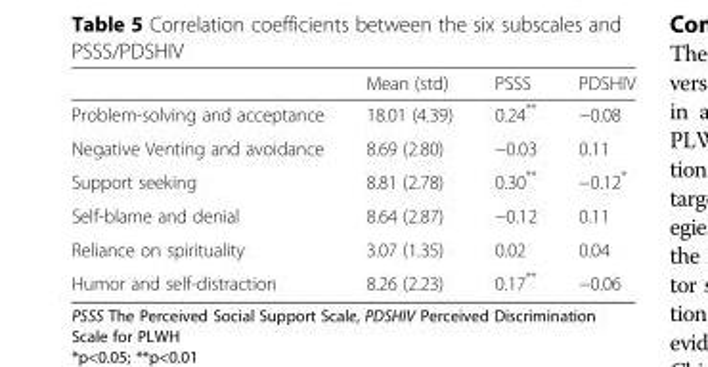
<table><thead><tr><td></td><td>Mean (std)</td><td>PSSS</td><td>PDSHIV</td></tr></thead><tbody><tr><td>Problem-solving and acceptance</td><td>18.01 (4.39)</td><td>0.24**</td><td>−0.08</td></tr><tr><td>Negative Venting and avoidance</td><td>8.69 (2.80)</td><td>−0.03</td><td>0.11</td></tr><tr><td>Support seeking</td><td>8.81 (2.78)</td><td>0.30**</td><td>−0.12*</td></tr><tr><td>Self-blame and denial</td><td>8.64 (2.87)</td><td>−0.12</td><td>0.11</td></tr><tr><td>Reliance on spirituality</td><td>3.07 (1.35)</td><td>0.02</td><td>0.04</td></tr><tr><td>Humor and self-distraction</td><td>8.26 (2.23)</td><td>0.17**</td><td>−0.06</td></tr></tbody></table>